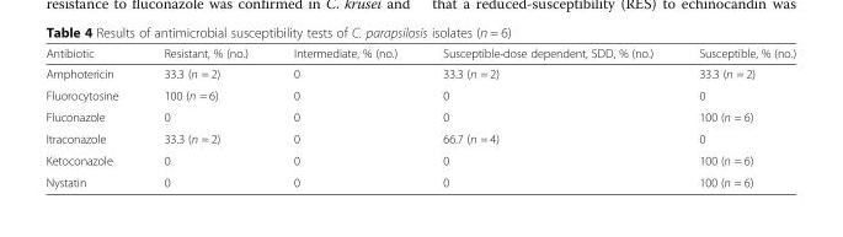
<table><thead><tr><td>Antibiotic</td><td>Resistant, % (no.)</td><td>Intermediate, % (no.)</td><td>Susceptible-dose dependent, SDD, % (no.)</td><td>Susceptible, % (no.)</td></tr></thead><tbody><tr><td>Amphotericin</td><td>33.3 (n = 2)</td><td>0</td><td>33.3 (n = 2)</td><td>33.3 (n = 2)</td></tr><tr><td>Fluorocytosine</td><td>100 (n = 6)</td><td>0</td><td>0</td><td>0</td></tr><tr><td>Fluconazole</td><td>0</td><td>0</td><td>0</td><td>100 (n = 6)</td></tr><tr><td>Itraconazole</td><td>33.3 (n = 2)</td><td>0</td><td>66.7 (n = 4)</td><td>0</td></tr><tr><td>Ketoconazole</td><td>0</td><td>0</td><td>0</td><td>100 (n = 6)</td></tr><tr><td>Nystatin</td><td>0</td><td>0</td><td>0</td><td>100 (n = 6)</td></tr></tbody></table>